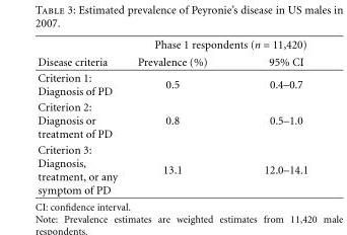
<table><thead><tr><td rowspan="2">Disease criteria</td><td colspan="2">Phase 1 respondents (n = 11,420)</td></tr><tr><td>Prevalence (%)</td><td>95% CI</td></tr></thead><tbody><tr><td>Criterion 1: Diagnosis of PD</td><td>0.5</td><td>0.4–0.7</td></tr><tr><td>Criterion 2: Diagnosis or treatment of PD</td><td>0.8</td><td>0.5–1.0</td></tr><tr><td>Criterion 3: Diagnosis, treatment, or any symptom of PD</td><td>13.1</td><td>12.0–14.1</td></tr></tbody></table>